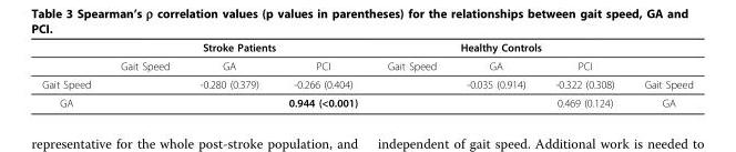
<table><thead><tr><td rowspan="2"></td><td colspan="3">Stroke Patients</td><td colspan="3">Healthy Controls</td><td rowspan="2"></td></tr><tr><td>Gait Speed</td><td>GA</td><td>PCI</td><td>Gait Speed</td><td>GA</td><td>PCI</td></tr></thead><tbody><tr><td>Gait Speed</td><td></td><td>-0.280 (0.379)</td><td>-0.266 (0.404)</td><td></td><td>-0.035 (0.914)</td><td>-0.322 (0.308)</td><td>Gait Speed</td></tr><tr><td>GA</td><td></td><td></td><td>0.944 (&lt;0.001)</td><td></td><td></td><td>0.469 (0.124)</td><td>GA</td></tr></tbody></table>